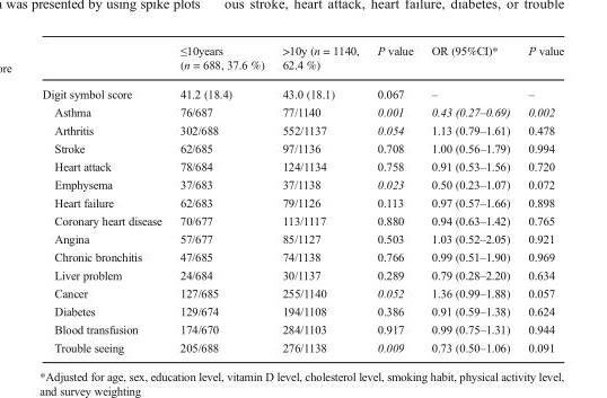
<table><thead><tr><td></td><td>≤10years (n = 688, 37.6 %)</td><td>&gt;10y (n = 1140, 62.4 %)</td><td>P value</td><td>OR (95%CI)*</td><td>P value</td></tr></thead><tbody><tr><td>Digit symbol score</td><td>41.2 (18.4)</td><td>43.0 (18.1)</td><td>0.067</td><td>–</td><td>–</td></tr><tr><td>Asthma</td><td>76/687</td><td>77/1140</td><td>0.001</td><td>0.43 (0.27–0.69)</td><td>0.002</td></tr><tr><td>Arthritis</td><td>302/688</td><td>552/1137</td><td>0.054</td><td>1.13 (0.79–1.61)</td><td>0.478</td></tr><tr><td>Stroke</td><td>62/685</td><td>97/1136</td><td>0.708</td><td>1.00 (0.56–1.79)</td><td>0.994</td></tr><tr><td>Heart attack</td><td>78/684</td><td>124/1134</td><td>0.758</td><td>0.91 (0.53–1.56)</td><td>0.720</td></tr><tr><td>Emphysema</td><td>37/683</td><td>37/1138</td><td>0.023</td><td>0.50 (0.23–1.07)</td><td>0.072</td></tr><tr><td>Heart failure</td><td>62/683</td><td>79/1126</td><td>0.113</td><td>0.97 (0.57–1.66)</td><td>0.898</td></tr><tr><td>Coronary heart disease</td><td>70/677</td><td>113/1117</td><td>0.880</td><td>0.94 (0.63–1.42)</td><td>0.765</td></tr><tr><td>Angina</td><td>57/677</td><td>85/1127</td><td>0.503</td><td>1.03 (0.52–2.05)</td><td>0.921</td></tr><tr><td>Chronic bronchitis</td><td>47/685</td><td>74/1138</td><td>0.766</td><td>0.99 (0.51–1.90)</td><td>0.969</td></tr><tr><td>Liver problem</td><td>24/684</td><td>30/1137</td><td>0.289</td><td>0.79 (0.28–2.20)</td><td>0.634</td></tr><tr><td>Cancer</td><td>127/685</td><td>255/1140</td><td>0.052</td><td>1.36 (0.99–1.88)</td><td>0.057</td></tr><tr><td>Diabetes</td><td>129/674</td><td>194/1108</td><td>0.386</td><td>0.91 (0.59–1.38)</td><td>0.624</td></tr><tr><td>Blood transfusion</td><td>174/670</td><td>284/1103</td><td>0.917</td><td>0.99 (0.75–1.31)</td><td>0.944</td></tr><tr><td>Trouble seeing</td><td>205/688</td><td>276/1138</td><td>0.009</td><td>0.73 (0.50–1.06)</td><td>0.091</td></tr></tbody></table>